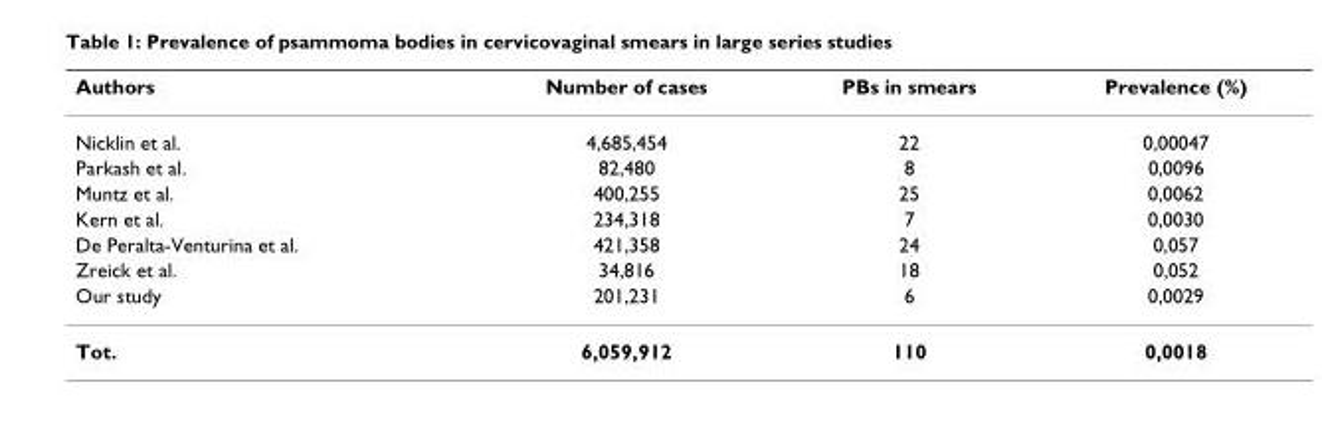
<table><thead><tr><td>Authors</td><td>Number of cases</td><td>PBs in smears</td><td>Prevalence (%)</td></tr></thead><tbody><tr><td>Nicklin et al.</td><td>4,685,454</td><td>22</td><td>0,00047</td></tr><tr><td>Parkash et al.</td><td>82,480</td><td>8</td><td>0,0096</td></tr><tr><td>Muntz et al.</td><td>400,255</td><td>25</td><td>0,0062</td></tr><tr><td>Kern et al.</td><td>234,318</td><td>7</td><td>0,0030</td></tr><tr><td>De Peralta-Venturina et al.</td><td>421,358</td><td>24</td><td>0,057</td></tr><tr><td>Zreick et al.</td><td>34,816</td><td>18</td><td>0,052</td></tr><tr><td>Our study</td><td>201,231</td><td>6</td><td>0,0029</td></tr><tr><td>Tot.</td><td>6,059,912</td><td>110</td><td>0,0018</td></tr></tbody></table>